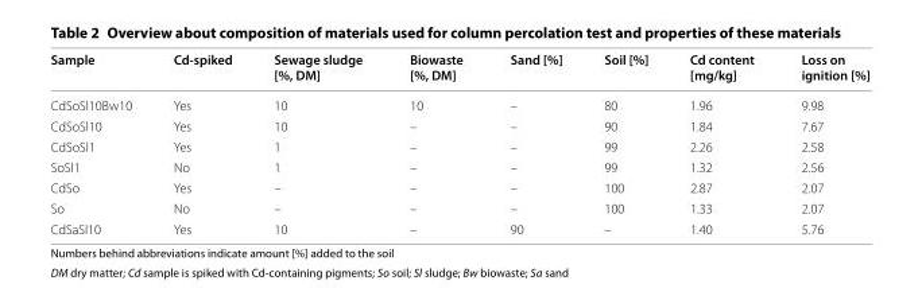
<table><thead><tr><td>Sample</td><td>Cd-spiked</td><td>Sewage sludge [%, DM]</td><td>Biowaste [%, DM]</td><td>Sand [%]</td><td>Soil [%]</td><td>Cd content [mg/kg]</td><td>Loss on ignition [%]</td></tr></thead><tbody><tr><td>CdSoSl10Bw10</td><td>Yes</td><td>10</td><td>10</td><td>–</td><td>80</td><td>1.96</td><td>9.98</td></tr><tr><td>CdSoSl10</td><td>Yes</td><td>10</td><td>–</td><td>–</td><td>90</td><td>1.84</td><td>7.67</td></tr><tr><td>CdSoSl1</td><td>Yes</td><td>1</td><td>–</td><td>–</td><td>99</td><td>2.26</td><td>2.58</td></tr><tr><td>SoSl1</td><td>No</td><td>1</td><td>–</td><td>–</td><td>99</td><td>1.32</td><td>2.56</td></tr><tr><td>CdSo</td><td>Yes</td><td>–</td><td>–</td><td>–</td><td>100</td><td>2.87</td><td>2.07</td></tr><tr><td>So</td><td>No</td><td>–</td><td>–</td><td>–</td><td>100</td><td>1.33</td><td>2.07</td></tr><tr><td>CdSaSl10</td><td>Yes</td><td>10</td><td>–</td><td>90</td><td>–</td><td>1.40</td><td>5.76</td></tr></tbody></table>